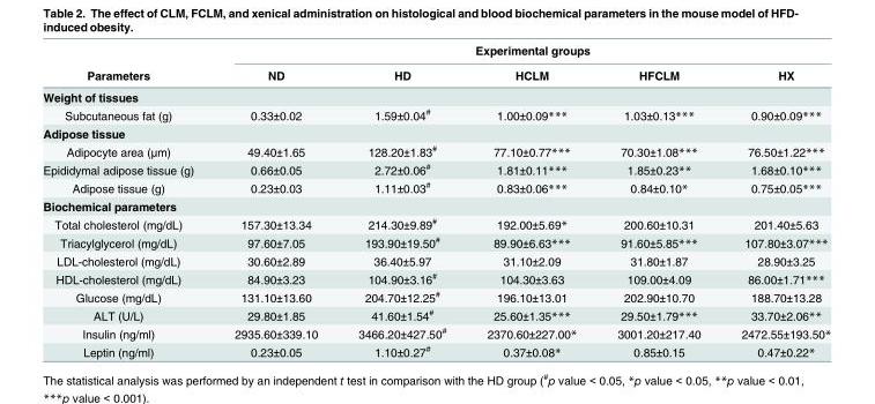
<table><thead><tr><td rowspan="2">Parameters</td><td colspan="5">Experimental groups</td></tr><tr><td>ND</td><td>HD</td><td>HCLM</td><td>HFCLM</td><td>HX</td></tr></thead><tbody><tr><td colspan="6">Weight of tissues</td></tr><tr><td>Subcutaneous fat (g)</td><td>0.33±0.02</td><td>1.59±0.04<sup>#</sup></td><td>1.00±0.09***</td><td>1.03±0.13***</td><td>0.90±0.09***</td></tr><tr><td colspan="6">Adipose tissue</td></tr><tr><td>Adipocyte area (μm)</td><td>49.40±1.65</td><td>128.20±1.83<sup>#</sup></td><td>77.10±0.77***</td><td>70.30±1.08***</td><td>76.50±1.22***</td></tr><tr><td>Epididymal adipose tissue (g)</td><td>0.66±0.05</td><td>2.72±0.06<sup>#</sup></td><td>1.81±0.11***</td><td>1.85±0.23**</td><td>1.68±0.10***</td></tr><tr><td>Adipose tissue (g)</td><td>0.23±0.03</td><td>1.11±0.03<sup>#</sup></td><td>0.83±0.06***</td><td>0.84±0.10*</td><td>0.75±0.05***</td></tr><tr><td colspan="6">Biochemical parameters</td></tr><tr><td>Total cholesterol (mg/dL)</td><td>157.30±13.34</td><td>214.30±9.89<sup>#</sup></td><td>192.00±5.69*</td><td>200.60±10.31</td><td>201.40±5.63</td></tr><tr><td>Triacylglycerol (mg/dL)</td><td>97.60±7.05</td><td>193.90±19.50<sup>#</sup></td><td>89.90±6.63***</td><td>91.60±5.85***</td><td>107.80±3.07***</td></tr><tr><td>LDL-cholesterol (mg/dL)</td><td>30.60±2.89</td><td>36.40±5.97</td><td>31.10±2.09</td><td>31.80±1.87</td><td>28.90±3.25</td></tr><tr><td>HDL-cholesterol (mg/dL)</td><td>84.90±3.23</td><td>104.90±3.16<sup>#</sup></td><td>104.30±3.63</td><td>109.00±4.09</td><td>86.00±1.71***</td></tr><tr><td>Glucose (mg/dL)</td><td>131.10±13.60</td><td>204.70±12.25<sup>#</sup></td><td>196.10±13.01</td><td>202.90±10.70</td><td>188.70±13.28</td></tr><tr><td>ALT (U/L)</td><td>29.80±1.85</td><td>41.60±1.54<sup>#</sup></td><td>25.60±1.35***</td><td>29.50±1.79***</td><td>33.70±2.06**</td></tr><tr><td>Insulin (ng/ml)</td><td>2935.60±339.10</td><td>3466.20±427.50<sup>#</sup></td><td>2370.60±227.00*</td><td>3001.20±217.40</td><td>2472.55±193.50*</td></tr><tr><td>Leptin (ng/ml)</td><td>0.23±0.05</td><td>1.10±0.27<sup>#</sup></td><td>0.37±0.08*</td><td>0.85±0.15</td><td>0.47±0.22*</td></tr></tbody></table>